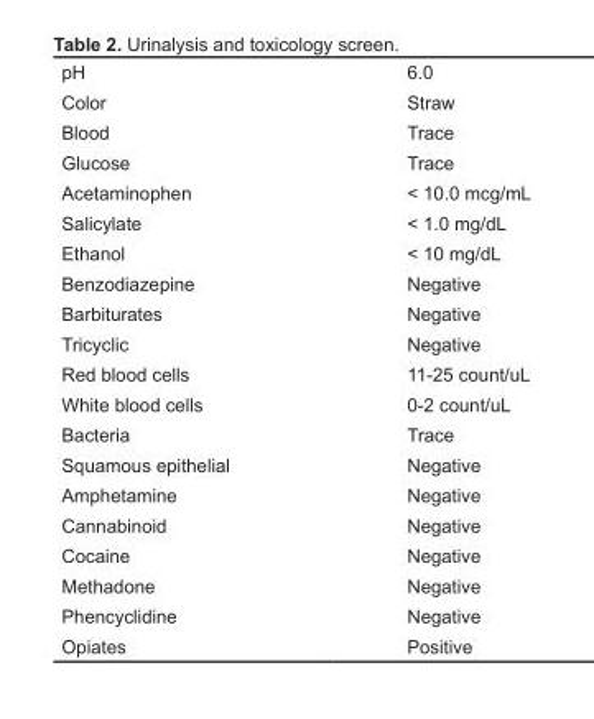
<table><tbody><tr><td>pH</td><td>6.0</td></tr><tr><td>Color</td><td>Straw</td></tr><tr><td>Blood</td><td>Trace</td></tr><tr><td>Glucose</td><td>Trace</td></tr><tr><td>Acetaminophen</td><td>&lt; 10.0 mcg/mL</td></tr><tr><td>Salicylate</td><td>&lt; 1.0 mg/dL</td></tr><tr><td>Ethanol</td><td>&lt; 10 mg/dL</td></tr><tr><td>Benzodiazepine</td><td>Negative</td></tr><tr><td>Barbiturates</td><td>Negative</td></tr><tr><td>Tricyclic</td><td>Negative</td></tr><tr><td>Red blood cells</td><td>11-25 count/uL</td></tr><tr><td>White blood cells</td><td>0-2 count/uL</td></tr><tr><td>Bacteria</td><td>Trace</td></tr><tr><td>Squamous epithelial</td><td>Negative</td></tr><tr><td>Amphetamine</td><td>Negative</td></tr><tr><td>Cannabinoid</td><td>Negative</td></tr><tr><td>Cocaine</td><td>Negative</td></tr><tr><td>Methadone</td><td>Negative</td></tr><tr><td>Phencyclidine</td><td>Negative</td></tr><tr><td>Opiates</td><td>Positive</td></tr></tbody></table>